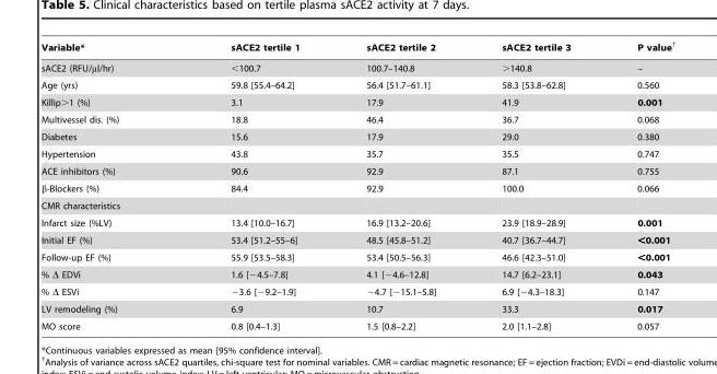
<table><thead><tr><td>Variable*</td><td>sACE2 tertile 1</td><td>sACE2 tertile 2</td><td>sACE2 tertile 3</td><td>P value†</td></tr></thead><tbody><tr><td>sACE2 (RFU/µl/hr)</td><td>&lt;100.7</td><td>100.7–140.8</td><td>&gt;140.8</td><td>–</td></tr><tr><td>Age (yrs)</td><td>59.8 [55.4–64.2]</td><td>56.4 [51.7–61.1]</td><td>58.3 [53.8–62.8]</td><td>0.560</td></tr><tr><td>Killip&gt;1 (%)</td><td>3.1</td><td>17.9</td><td>41.9</td><td>0.001</td></tr><tr><td>Multivessel dis. (%)</td><td>18.8</td><td>46.4</td><td>36.7</td><td>0.068</td></tr><tr><td>Diabetes</td><td>15.6</td><td>17.9</td><td>29.0</td><td>0.380</td></tr><tr><td>Hypertension</td><td>43.8</td><td>35.7</td><td>35.5</td><td>0.747</td></tr><tr><td>ACE inhibitors (%)</td><td>90.6</td><td>92.9</td><td>87.1</td><td>0.755</td></tr><tr><td>β-Blockers (%)</td><td>84.4</td><td>92.9</td><td>100.0</td><td>0.066</td></tr><tr><td colspan="5">CMR characteristics</td></tr><tr><td>Infarct size (%LV)</td><td>13.4 [10.0–16.7]</td><td>16.9 [13.2–20.6]</td><td>23.9 [18.9–28.9]</td><td>0.001</td></tr><tr><td>Initial EF (%)</td><td>53.4 [51.2–55–6]</td><td>48.5 [45.8–51.2]</td><td>40.7 [36.7–44.7]</td><td>&lt;0.001</td></tr><tr><td>Follow-up EF (%)</td><td>55.9 [53.5–58.3]</td><td>53.4 [50.5–56.3]</td><td>46.6 [42.3–51.0]</td><td>&lt;0.001</td></tr><tr><td>% Δ EDVi</td><td>1.6 [−4.5–7.8]</td><td>4.1 [−4.6–12.8]</td><td>14.7 [6.2–23.1]</td><td>0.043</td></tr><tr><td>% Δ ESVi</td><td>−3.6 [−9.2–1.9]</td><td>−4.7 [−15.1–5.8]</td><td>6.9 [−4.3–18.3]</td><td>0.147</td></tr><tr><td>LV remodeling (%)</td><td>6.9</td><td>10.7</td><td>33.3</td><td>0.017</td></tr><tr><td>MO score</td><td>0.8 [0.4–1.3]</td><td>1.5 [0.8–2.2]</td><td>2.0 [1.1–2.8]</td><td>0.057</td></tr></tbody></table>